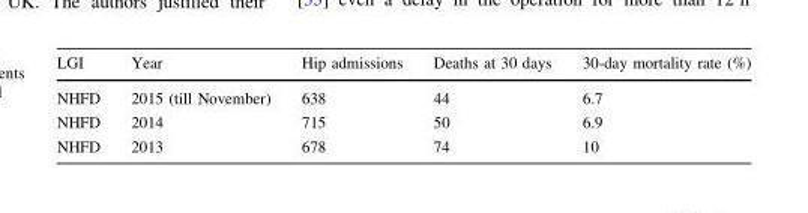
<table><thead><tr><td>LGI</td><td>Year</td><td>Hip admissions</td><td>Deaths at 30 days</td><td>30-day mortality rate (%)</td></tr></thead><tbody><tr><td>NHFD</td><td>2015 (till November)</td><td>638</td><td>44</td><td>6.7</td></tr><tr><td>NHFD</td><td>2014</td><td>715</td><td>50</td><td>6.9</td></tr><tr><td>NHFD</td><td>2013</td><td>678</td><td>74</td><td>10</td></tr></tbody></table>